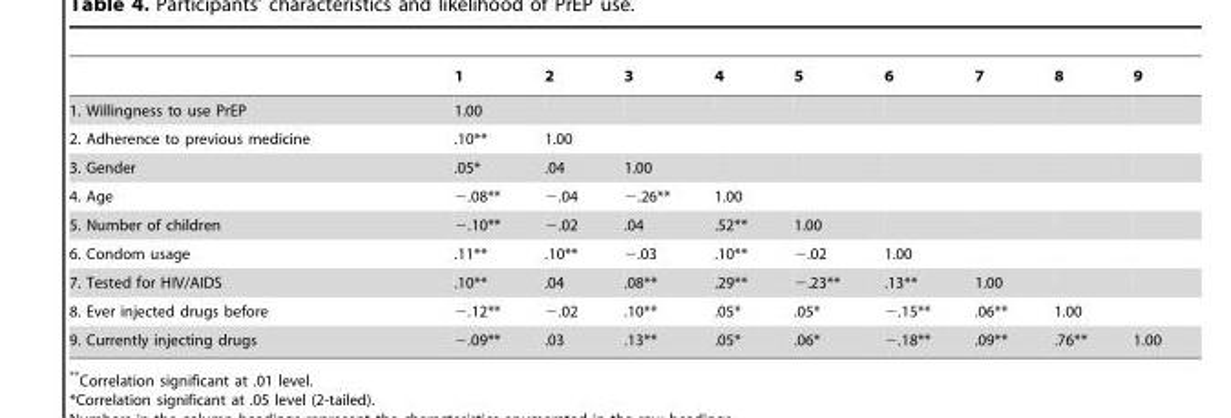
<table><thead><tr><td></td><td>1</td><td>2</td><td>3</td><td>4</td><td>5</td><td>6</td><td>7</td><td>8</td><td>9</td></tr></thead><tbody><tr><td>1. Willingness to use PrEP</td><td>1.00</td><td></td><td></td><td></td><td></td><td></td><td></td><td></td><td></td></tr><tr><td>2. Adherence to previous medicine</td><td>.10**</td><td>1.00</td><td></td><td></td><td></td><td></td><td></td><td></td><td></td></tr><tr><td>3. Gender</td><td>.05*</td><td>.04</td><td>1.00</td><td></td><td></td><td></td><td></td><td></td><td></td></tr><tr><td>4. Age</td><td>−.08**</td><td>−.04</td><td>−.26**</td><td>1.00</td><td></td><td></td><td></td><td></td><td></td></tr><tr><td>5. Number of children</td><td>−.10**</td><td>−.02</td><td>.04</td><td>.52**</td><td>1.00</td><td></td><td></td><td></td><td></td></tr><tr><td>6. Condom usage</td><td>.11**</td><td>.10**</td><td>−.03</td><td>.10**</td><td>−.02</td><td>1.00</td><td></td><td></td><td></td></tr><tr><td>7. Tested for HIV/AIDS</td><td>.10**</td><td>.04</td><td>.08**</td><td>.29**</td><td>−.23**</td><td>.13**</td><td>1.00</td><td></td><td></td></tr><tr><td>8. Ever injected drugs before</td><td>−.12**</td><td>−.02</td><td>.10**</td><td>.05*</td><td>.05*</td><td>−.15**</td><td>.06**</td><td>1.00</td><td></td></tr><tr><td>9. Currently injecting drugs</td><td>−.09**</td><td>.03</td><td>.13**</td><td>.05*</td><td>.06*</td><td>−.18**</td><td>.09**</td><td>.76**</td><td>1.00</td></tr></tbody></table>